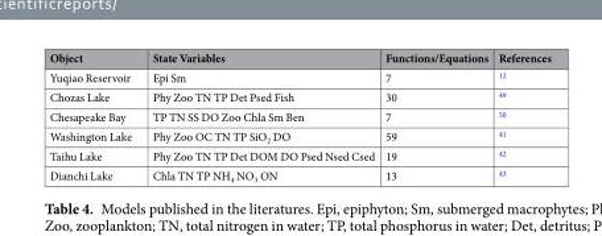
<table><thead><tr><td>Object</td><td>State Variables</td><td>Functions/Equations</td><td>References</td></tr></thead><tbody><tr><td>Yuqiao Reservoir</td><td>Epi Sm</td><td>7</td><td><sup>12</sup></td></tr><tr><td>Chozas Lake</td><td>Phy Zoo TN TP Det Psed Fish</td><td>30</td><td><sup>49</sup></td></tr><tr><td>Chesapeake Bay</td><td>TP TN SS DO Zoo Chla Sm Ben</td><td>7</td><td><sup>50</sup></td></tr><tr><td>Washington Lake</td><td>Phy Zoo OC TN TP SiO<sub>2</sub> DO</td><td>59</td><td><sup>41</sup></td></tr><tr><td>Taihu Lake</td><td>Phy Zoo TN TP Det DOM DO Psed Nsed Csed</td><td>19</td><td><sup>42</sup></td></tr><tr><td>Dianchi Lake</td><td>Chla TN TP NH<sub>4</sub> NO<sub>3</sub> ON</td><td>13</td><td><sup>43</sup></td></tr></tbody></table>